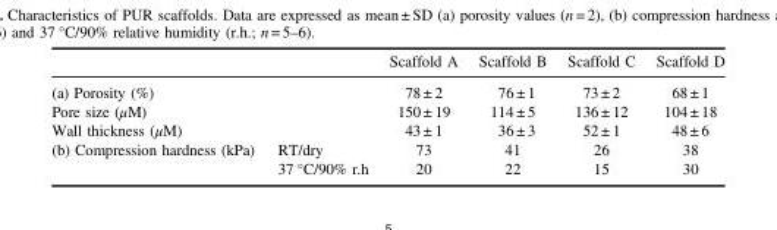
<table><thead><tr><td></td><td></td><td>Scaffold A</td><td>Scaffold B</td><td>Scaffold C</td><td>Scaffold D</td></tr></thead><tbody><tr><td>(a) Porosity (%)</td><td></td><td>78 ± 2</td><td>76 ± 1</td><td>73 ± 2</td><td>68 ± 1</td></tr><tr><td>Pore size (μM)</td><td></td><td>150 ± 19</td><td>114 ± 5</td><td>136 ± 12</td><td>104 ± 18</td></tr><tr><td>Wall thickness (μM)</td><td></td><td>43 ± 1</td><td>36 ± 3</td><td>52 ± 1</td><td>48 ± 6</td></tr><tr><td rowspan="2">(b) Compression hardness (kPa)</td><td>RT/dry</td><td>73</td><td>41</td><td>26</td><td>38</td></tr><tr><td>37 °C/90% r.h</td><td>20</td><td>22</td><td>15</td><td>30</td></tr></tbody></table>